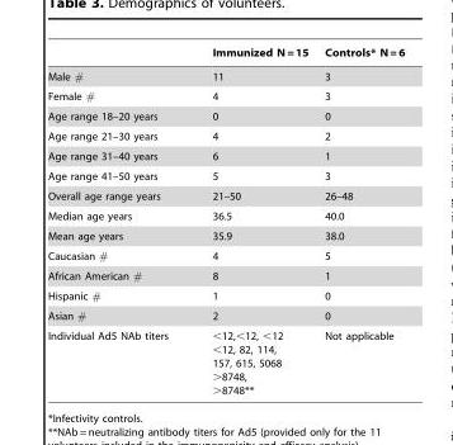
<table><thead><tr><td></td><td>Immunized N = 15</td><td>Controls* N = 6</td></tr></thead><tbody><tr><td>Male #</td><td>11</td><td>3</td></tr><tr><td>Female #</td><td>4</td><td>3</td></tr><tr><td>Age range 18–20 years</td><td>0</td><td>0</td></tr><tr><td>Age range 21–30 years</td><td>4</td><td>2</td></tr><tr><td>Age range 31–40 years</td><td>6</td><td>1</td></tr><tr><td>Age range 41–50 years</td><td>5</td><td>3</td></tr><tr><td>Overall age range years</td><td>21–50</td><td>26–48</td></tr><tr><td>Median age years</td><td>36.5</td><td>40.0</td></tr><tr><td>Mean age years</td><td>35.9</td><td>38.0</td></tr><tr><td>Caucasian #</td><td>4</td><td>5</td></tr><tr><td>African American #</td><td>8</td><td>1</td></tr><tr><td>Hispanic #</td><td>1</td><td>0</td></tr><tr><td>Asian #</td><td>2</td><td>0</td></tr><tr><td>Individual Ad5 NAb titers</td><td>&lt;12,&lt;12, &lt;12 &lt;12, 82, 114, 157, 615, 5068 &gt;8748, &gt;8748**</td><td>Not applicable</td></tr></tbody></table>